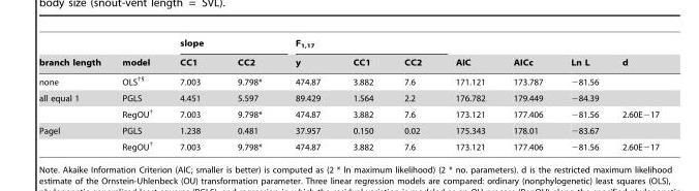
<table><thead><tr><td rowspan="2">branch length</td><td rowspan="2">model</td><td colspan="2">slope</td><td colspan="3">F<sub>1,17</sub></td><td rowspan="2">AIC</td><td rowspan="2">AICc</td><td rowspan="2">Ln L</td><td rowspan="2">d</td></tr><tr><td>CC1</td><td>CC2</td><td>y</td><td>CC1</td><td>CC2</td></tr></thead><tbody><tr><td>none</td><td>OLS†§</td><td>7.003</td><td>9.798*</td><td>474.87</td><td>3.882</td><td>7.6</td><td>171.121</td><td>173.787</td><td>−81.56</td><td></td></tr><tr><td rowspan="2">all equal 1</td><td>PGLS</td><td>4.451</td><td>5.597</td><td>89.429</td><td>1.564</td><td>2.2</td><td>176.782</td><td>179.449</td><td>−84.39</td><td></td></tr><tr><td>RegOU†</td><td>7.003</td><td>9.798*</td><td>474.87</td><td>3.882</td><td>7.6</td><td>173.121</td><td>177.406</td><td>−81.56</td><td>2.60E−17</td></tr><tr><td rowspan="2">Pagel</td><td>PGLS</td><td>1.238</td><td>0.481</td><td>37.957</td><td>0.150</td><td>0.02</td><td>175.343</td><td>178.01</td><td>−83.67</td><td></td></tr><tr><td>RegOU†</td><td>7.003</td><td>9.798*</td><td>474.87</td><td>3.882</td><td>7.6</td><td>173.121</td><td>177.406</td><td>−81.56</td><td>2.60E−17</td></tr></tbody></table>